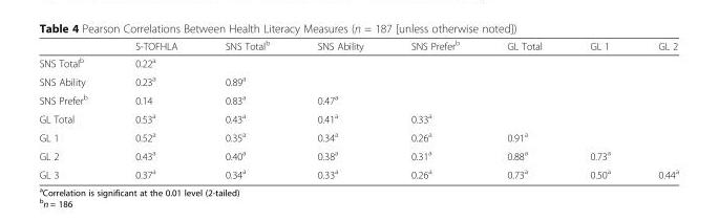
<table><thead><tr><td></td><td>S-TOFHLA</td><td>SNS Total<sup>b</sup></td><td>SNS Ability</td><td>SNS Prefer<sup>b</sup></td><td>GL Total</td><td>GL 1</td><td>GL 2</td></tr></thead><tbody><tr><td>SNS Total<sup>b</sup></td><td colspan="7">0.22<sup>a</sup></td></tr><tr><td>SNS Ability</td><td>0.23<sup>a</sup></td><td colspan="6">0.89<sup>a</sup></td></tr><tr><td>SNS Prefer<sup>b</sup></td><td>0.14</td><td>0.83<sup>a</sup></td><td colspan="5">0.47<sup>a</sup></td></tr><tr><td>GL Total</td><td>0.53<sup>a</sup></td><td>0.43<sup>a</sup></td><td>0.41<sup>a</sup></td><td colspan="4">0.33<sup>a</sup></td></tr><tr><td>GL 1</td><td>0.52<sup>a</sup></td><td>0.35<sup>a</sup></td><td>0.34<sup>a</sup></td><td>0.26<sup>a</sup></td><td colspan="3">0.91<sup>a</sup></td></tr><tr><td>GL 2</td><td>0.43<sup>a</sup></td><td>0.40<sup>a</sup></td><td>0.38<sup>a</sup></td><td>0.31<sup>a</sup></td><td>0.88<sup>a</sup></td><td colspan="2">0.73<sup>a</sup></td></tr><tr><td>GL 3</td><td>0.37<sup>a</sup></td><td>0.34<sup>a</sup></td><td>0.33<sup>a</sup></td><td>0.26<sup>a</sup></td><td>0.73<sup>a</sup></td><td>0.50<sup>a</sup></td><td>0.44<sup>a</sup></td></tr></tbody></table>